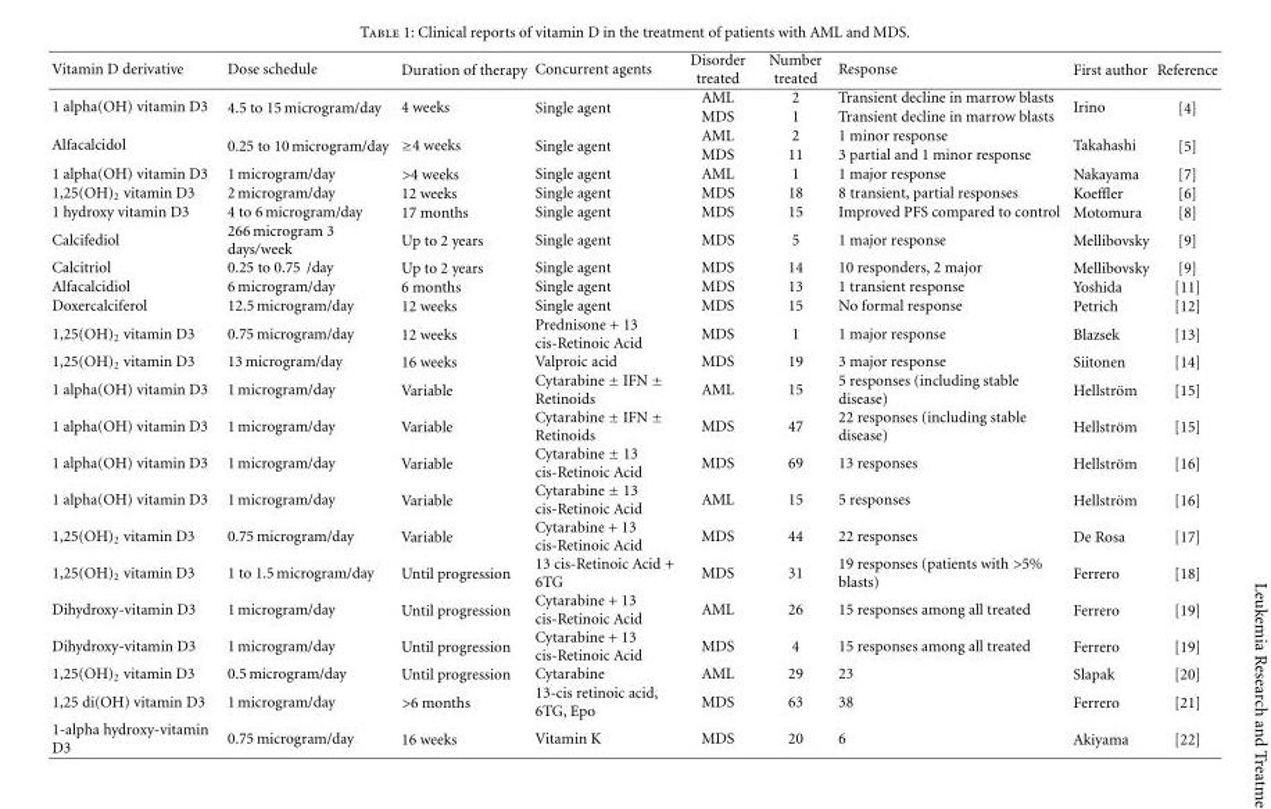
<table><thead><tr><td>Vitamin D derivative</td><td>Dose schedule</td><td>Duration of therapy</td><td>Concurrent agents</td><td>Disorder treated</td><td>Number treated</td><td>Response</td><td>First author</td><td>Reference</td></tr></thead><tbody><tr><td rowspan="2">1 alpha(OH) vitamin D3</td><td rowspan="2">4.5 to 15 microgram/day</td><td rowspan="2">4 weeks</td><td rowspan="2">Single agent</td><td>AML</td><td>2</td><td>Transient decline in marrow blasts</td><td rowspan="2">Irino</td><td rowspan="2">[4]</td></tr><tr><td>MDS</td><td>1</td><td>Transient decline in marrow blasts</td></tr><tr><td rowspan="2">Alfacalcidol</td><td rowspan="2">0.25 to 10 microgram/day</td><td rowspan="2">≥4 weeks</td><td rowspan="2">Single agent</td><td>AML</td><td>2</td><td>1 minor response</td><td rowspan="2">Takahashi</td><td rowspan="2">[5]</td></tr><tr><td>MDS</td><td>11</td><td>3 partial and 1 minor response</td></tr><tr><td>1 alpha(OH) vitamin D3</td><td>1 microgram/day</td><td>&gt;4 weeks</td><td>Single agent</td><td>AML</td><td>1</td><td>1 major response</td><td>Nakayama</td><td>[7]</td></tr><tr><td>1,25(OH)<sub>2</sub> vitamin D3</td><td>2 microgram/day</td><td>12 weeks</td><td>Single agent</td><td>MDS</td><td>18</td><td>8 transient, partial responses</td><td>Koeffler</td><td>[6]</td></tr><tr><td>1 hydroxy vitamin D3</td><td>4 to 6 microgram/day</td><td>17 months</td><td>Single agent</td><td>MDS</td><td>15</td><td>Improved PFS compared to control</td><td>Motomura</td><td>[8]</td></tr><tr><td>Calcifediol</td><td>266 microgram 3 days/week</td><td>Up to 2 years</td><td>Single agent</td><td>MDS</td><td>5</td><td>1 major response</td><td>Mellibovsky</td><td>[9]</td></tr><tr><td>Calcitriol</td><td>0.25 to 0.75 /day</td><td>Up to 2 years</td><td>Single agent</td><td>MDS</td><td>14</td><td>10 responders, 2 major</td><td>Mellibovsky</td><td>[9]</td></tr><tr><td>Alfacalcidiol</td><td>6 microgram/day</td><td>6 months</td><td>Single agent</td><td>MDS</td><td>13</td><td>1 transient response</td><td>Yoshida</td><td>[11]</td></tr><tr><td>Doxercalciferol</td><td>12.5 microgram/day</td><td>12 weeks</td><td>Single agent</td><td>MDS</td><td>15</td><td>No formal response</td><td>Petrich</td><td>[12]</td></tr><tr><td>1,25(OH)<sub>2</sub> vitamin D3</td><td>0.75 microgram/day</td><td>12 weeks</td><td>Prednisone + 13 cis-Retinoic Acid</td><td>MDS</td><td>1</td><td>1 major response</td><td>Blazsek</td><td>[13]</td></tr><tr><td>1,25(OH)<sub>2</sub> vitamin D3</td><td>13 microgram/day</td><td>16 weeks</td><td>Valproic acid</td><td>MDS</td><td>19</td><td>3 major response</td><td>Siitonen</td><td>[14]</td></tr><tr><td>1 alpha(OH) vitamin D3</td><td>1 microgram/day</td><td>Variable</td><td>Cytarabine ± IFN ± Retinoids</td><td>AML</td><td>15</td><td>5 responses (including stable disease)</td><td>Hellstr¨om</td><td>[15]</td></tr><tr><td>1 alpha(OH) vitamin D3</td><td>1 microgram/day</td><td>Variable</td><td>Cytarabine ± IFN ± Retinoids</td><td>MDS</td><td>47</td><td>22 responses (including stable disease)</td><td>Hellstr¨om</td><td>[15]</td></tr><tr><td>1 alpha(OH) vitamin D3</td><td>1 microgram/day</td><td>Variable</td><td>Cytarabine ± 13 cis-Retinoic Acid</td><td>MDS</td><td>69</td><td>13 responses</td><td>Hellstr¨om</td><td>[16]</td></tr><tr><td>1 alpha(OH) vitamin D3</td><td>1 microgram/day</td><td>Variable</td><td>Cytarabine ± 13 cis-Retinoic Acid</td><td>AML</td><td>15</td><td>5 responses</td><td>Hellstr¨om</td><td>[16]</td></tr><tr><td>1,25(OH)<sub>2</sub> vitamin D3</td><td>0.75 microgram/day</td><td>Variable</td><td>Cytarabine + 13 cis-Retinoic Acid</td><td>MDS</td><td>44</td><td>22 responses</td><td>De Rosa</td><td>[17]</td></tr><tr><td>1,25(OH)<sub>2</sub> vitamin D3</td><td>1 to 1.5 microgram/day</td><td>Until progression</td><td>13 cis-Retinoic Acid + 6TG</td><td>MDS</td><td>31</td><td>19 responses (patients with &gt;5% blasts)</td><td>Ferrero</td><td>[18]</td></tr><tr><td>Dihydroxy-vitamin D3</td><td>1 microgram/day</td><td>Until progression</td><td>Cytarabine + 13 cis-Retinoic Acid</td><td>AML</td><td>26</td><td>15 responses among all treated</td><td>Ferrero</td><td>[19]</td></tr><tr><td>Dihydroxy-vitamin D3</td><td>1 microgram/day</td><td>Until progression</td><td>Cytarabine + 13 cis-Retinoic Acid</td><td>MDS</td><td>4</td><td>15 responses among all treated</td><td>Ferrero</td><td>[19]</td></tr><tr><td>1,25(OH)<sub>2</sub> vitamin D3</td><td>0.5 microgram/day</td><td>Until progression</td><td>Cytarabine</td><td>AML</td><td>29</td><td>23</td><td>Slapak</td><td>[20]</td></tr><tr><td>1,25 di(OH) vitamin D3</td><td>1 microgram/day</td><td>&gt;6 months</td><td>13-cis retinoic acid, 6TG, Epo</td><td>MDS</td><td>63</td><td>38</td><td>Ferrero</td><td>[21]</td></tr><tr><td>1-alpha hydroxy-vitamin D3</td><td>0.75 microgram/day</td><td>16 weeks</td><td>Vitamin K</td><td>MDS</td><td>20</td><td>6</td><td>Akiyama</td><td>[22]</td></tr></tbody></table>